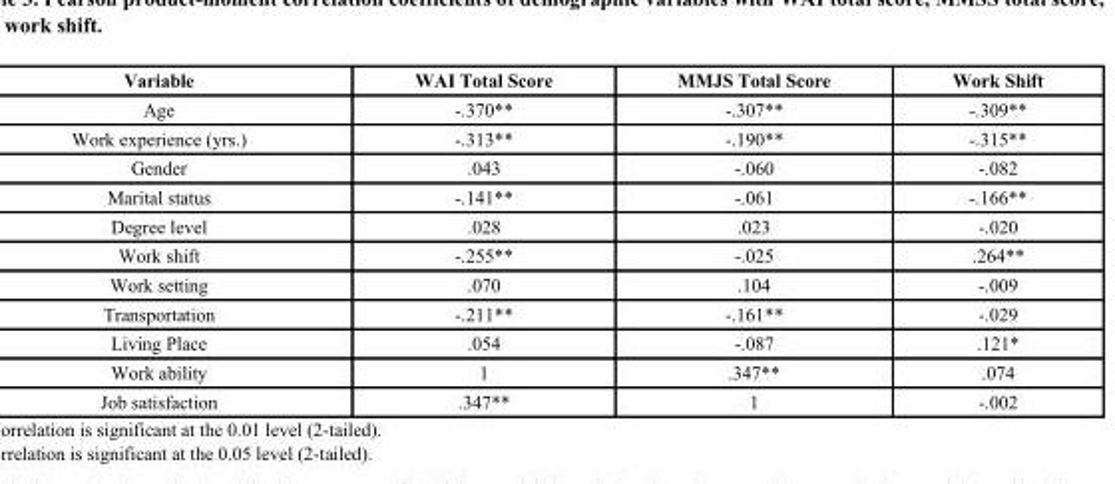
<table><thead><tr><td>Variable</td><td>WAI Total Score</td><td>MMJS Total Score</td><td>Work Shift</td></tr></thead><tbody><tr><td>Age</td><td>-.370**</td><td>-.307**</td><td>-.309**</td></tr><tr><td>Work experience (yrs.)</td><td>-.313**</td><td>-.190**</td><td>-.315**</td></tr><tr><td>Gender</td><td>.043</td><td>-.060</td><td>-.082</td></tr><tr><td>Marital status</td><td>-.141**</td><td>-.061</td><td>-.166**</td></tr><tr><td>Degree level</td><td>.028</td><td>.023</td><td>-.020</td></tr><tr><td>Work shift</td><td>-.255**</td><td>-.025</td><td>.264**</td></tr><tr><td>Work setting</td><td>.070</td><td>.104</td><td>-.009</td></tr><tr><td>Transportation</td><td>-.211**</td><td>-.161**</td><td>-.029</td></tr><tr><td>Living Place</td><td>.054</td><td>-.087</td><td>.121*</td></tr><tr><td>Work ability</td><td>1</td><td>.347**</td><td>.074</td></tr><tr><td>Job satisfaction</td><td>.347**</td><td>1</td><td>-.002</td></tr></tbody></table>